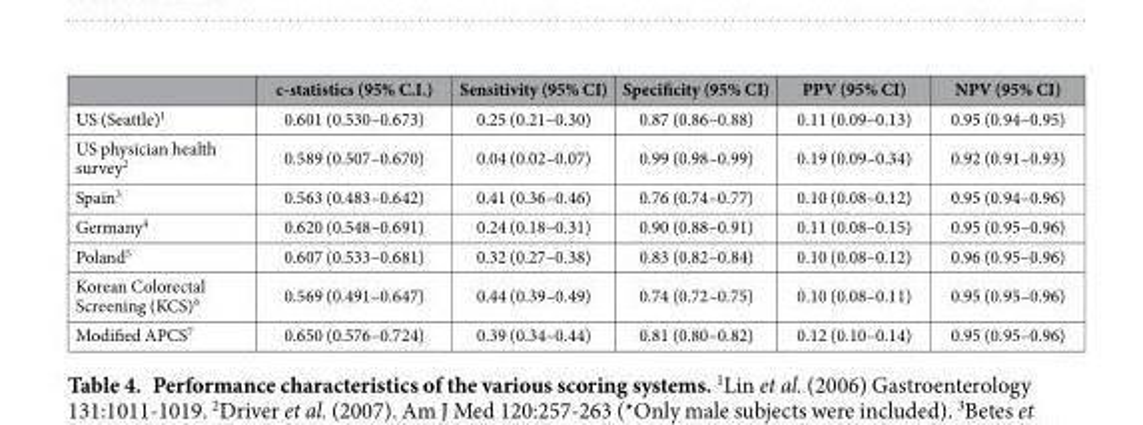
<table><thead><tr><td></td><td>c-statistics (95% C.I.)</td><td>Sensitivity (95% CI)</td><td>Specificity (95% CI)</td><td>PPV (95% CI)</td><td>NPV (95% CI)</td></tr></thead><tbody><tr><td>US (Seattle)<sup>1</sup></td><td>0.601 (0.530–0.673)</td><td>0.25 (0.21–0.30)</td><td>0.87 (0.86–0.88)</td><td>0.11 (0.09–0.13)</td><td>0.95 (0.94–0.95)</td></tr><tr><td>US physician health survey<sup>2</sup></td><td>0.589 (0.507–0.670)</td><td>0.04 (0.02–0.07)</td><td>0.99 (0.98–0.99)</td><td>0.19 (0.09–0.34)</td><td>0.92 (0.91–0.93)</td></tr><tr><td>Spain<sup>3</sup></td><td>0.563 (0.483–0.642)</td><td>0.41 (0.36–0.46)</td><td>0.76 (0.74–0.77)</td><td>0.10 (0.08–0.12)</td><td>0.95 (0.94–0.96)</td></tr><tr><td>Germany<sup>4</sup></td><td>0.620 (0.548–0.691)</td><td>0.24 (0.18–0.31)</td><td>0.90 (0.88–0.91)</td><td>0.11 (0.08–0.15)</td><td>0.95 (0.95–0.96)</td></tr><tr><td>Poland<sup>5</sup></td><td>0.607 (0.533–0.681)</td><td>0.32 (0.27–0.38)</td><td>0.83 (0.82–0.84)</td><td>0.10 (0.08–0.12)</td><td>0.96 (0.95–0.96)</td></tr><tr><td>Korean Colorectal Screening (KCS)<sup>6</sup></td><td>0.569 (0.491–0.647)</td><td>0.44 (0.39–0.49)</td><td>0.74 (0.72–0.75)</td><td>0.10 (0.08–0.11)</td><td>0.95 (0.95–0.96)</td></tr><tr><td>Modified APCS<sup>7</sup></td><td>0.650 (0.576–0.724)</td><td>0.39 (0.34–0.44)</td><td>0.81 (0.80–0.82)</td><td>0.12 (0.10–0.14)</td><td>0.95 (0.95–0.96)</td></tr></tbody></table>